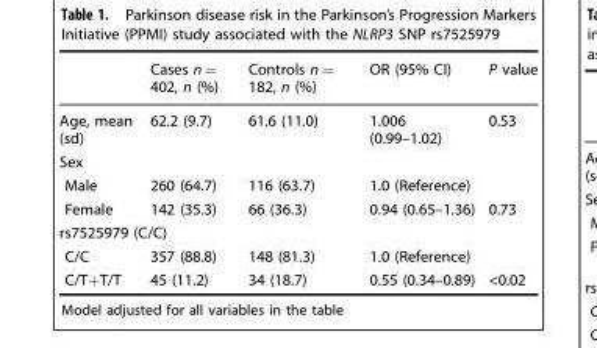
<table><thead><tr><td></td><td>Cases n = 402, n (%)</td><td>Controls n = 182, n (%)</td><td>OR (95% CI)</td><td>P value</td></tr></thead><tbody><tr><td>Age, mean (sd)</td><td>62.2 (9.7)</td><td>61.6 (11.0)</td><td>1.006 (0.99–1.02)</td><td>0.53</td></tr><tr><td colspan="5">Sex</td></tr><tr><td>Male</td><td>260 (64.7)</td><td>116 (63.7)</td><td>1.0 (Reference)</td><td></td></tr><tr><td>Female</td><td>142 (35.3)</td><td>66 (36.3)</td><td>0.94 (0.65–1.36)</td><td>0.73</td></tr><tr><td colspan="5">rs7525979 (C/C)</td></tr><tr><td>C/C</td><td>357 (88.8)</td><td>148 (81.3)</td><td>1.0 (Reference)</td><td></td></tr><tr><td>C/T+T/T</td><td>45 (11.2)</td><td>34 (18.7)</td><td>0.55 (0.34–0.89)</td><td>&lt;0.02</td></tr></tbody></table>